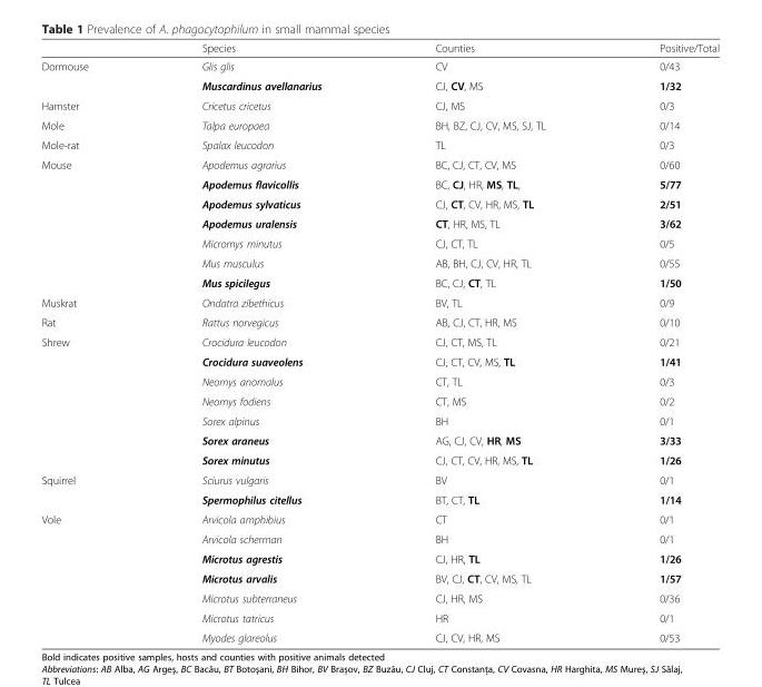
<table><thead><tr><td></td><td>Species</td><td>Counties</td><td>Positive/Total</td></tr></thead><tbody><tr><td rowspan="2">Dormouse</td><td>Glis glis</td><td>CV</td><td>0/43</td></tr><tr><td>Muscardinus avellanarius</td><td>CJ, CV, MS</td><td>1/32</td></tr><tr><td>Hamster</td><td>Cricetus cricetus</td><td>CJ, MS</td><td>0/3</td></tr><tr><td>Mole</td><td>Talpa europaea</td><td>BH, BZ, CJ, CV, MS, SJ, TL</td><td>0/14</td></tr><tr><td>Mole-rat</td><td>Spalax leucodon</td><td>TL</td><td>0/3</td></tr><tr><td rowspan="7">Mouse</td><td>Apodemus agrarius</td><td>BC, CJ, CT, CV, MS</td><td>0/60</td></tr><tr><td>Apodemus flavicollis</td><td>BC, CJ, HR, MS, TL,</td><td>5/77</td></tr><tr><td>Apodemus sylvaticus</td><td>CJ, CT, CV, HR, MS, TL</td><td>2/51</td></tr><tr><td>Apodemus uralensis</td><td>CT, HR, MS, TL</td><td>3/62</td></tr><tr><td>Micromys minutus</td><td>CJ, CT, TL</td><td>0/5</td></tr><tr><td>Mus musculus</td><td>AB, BH, CJ, CV, HR, TL</td><td>0/55</td></tr><tr><td>Mus spicilegus</td><td>BC, CJ, CT, TL</td><td>1/50</td></tr><tr><td>Muskrat</td><td>Ondatra zibethicus</td><td>BV, TL</td><td>0/9</td></tr><tr><td>Rat</td><td>Rattus norvegicus</td><td>AB, CJ, CT, HR, MS</td><td>0/10</td></tr><tr><td rowspan="7">Shrew</td><td>Crocidura leucodon</td><td>CJ, CT, MS, TL</td><td>0/21</td></tr><tr><td>Crocidura suaveolens</td><td>CJ, CT, CV, MS, TL</td><td>1/41</td></tr><tr><td>Neomys anomalus</td><td>CT, TL</td><td>0/3</td></tr><tr><td>Neomys fodiens</td><td>CT, MS</td><td>0/2</td></tr><tr><td>Sorex alpinus</td><td>BH</td><td>0/1</td></tr><tr><td>Sorex araneus</td><td>AG, CJ, CV, HR, MS</td><td>3/33</td></tr><tr><td>Sorex minutus</td><td>CJ, CT, CV, HR, MS, TL</td><td>1/26</td></tr><tr><td rowspan="2">Squirrel</td><td>Sciurus vulgaris</td><td>BV</td><td>0/1</td></tr><tr><td>Spermophilus citellus</td><td>BT, CT, TL</td><td>1/14</td></tr><tr><td rowspan="7">Vole</td><td>Arvicola amphibius</td><td>CT</td><td>0/1</td></tr><tr><td>Arvicola scherman</td><td>BH</td><td>0/1</td></tr><tr><td>Microtus agrestis</td><td>CJ, HR, TL</td><td>1/26</td></tr><tr><td>Microtus arvalis</td><td>BV, CJ, CT, CV, MS, TL</td><td>1/57</td></tr><tr><td>Microtus subterraneus</td><td>CJ, HR, MS</td><td>0/36</td></tr><tr><td>Microtus tatricus</td><td>HR</td><td>0/1</td></tr><tr><td>Myodes glareolus</td><td>CJ, CV, HR, MS</td><td>0/53</td></tr></tbody></table>